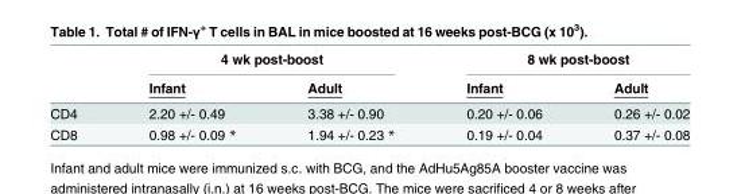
<table><thead><tr><td rowspan="2"></td><td colspan="2">4 wk post-boost</td><td colspan="2">8 wk post-boost</td></tr><tr><td>Infant</td><td>Adult</td><td>Infant</td><td>Adult</td></tr></thead><tbody><tr><td>CD4</td><td>2.20 +/- 0.49</td><td>3.38 +/- 0.90</td><td>0.20 +/- 0.06</td><td>0.26 +/- 0.02</td></tr><tr><td>CD8</td><td>0.98 +/- 0.09 *</td><td>1.94 +/- 0.23 *</td><td>0.19 +/- 0.04</td><td>0.37 +/- 0.08</td></tr></tbody></table>